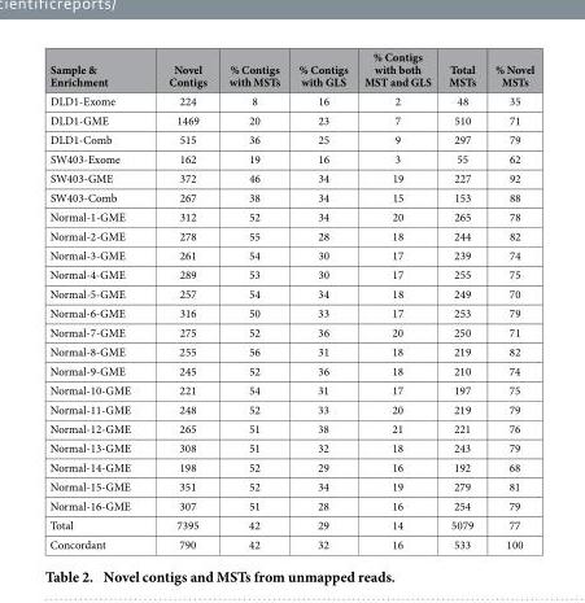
<table><thead><tr><td>Sample &amp; Enrichment</td><td>Novel Contigs</td><td>% Contigs with MSTs</td><td>% Contigs with GLS</td><td>% Contigs with both MST and GLS</td><td>Total MSTs</td><td>% Novel MSTs</td></tr></thead><tbody><tr><td>DLD1-Exome</td><td>224</td><td>8</td><td>16</td><td>2</td><td>48</td><td>35</td></tr><tr><td>DLD1-GME</td><td>1469</td><td>20</td><td>23</td><td>7</td><td>510</td><td>71</td></tr><tr><td>DLD1-Comb</td><td>515</td><td>36</td><td>25</td><td>9</td><td>297</td><td>79</td></tr><tr><td>SW403-Exome</td><td>162</td><td>19</td><td>16</td><td>3</td><td>55</td><td>62</td></tr><tr><td>SW403-GME</td><td>372</td><td>46</td><td>34</td><td>19</td><td>227</td><td>92</td></tr><tr><td>SW403-Comb</td><td>267</td><td>38</td><td>34</td><td>15</td><td>153</td><td>88</td></tr><tr><td>Normal-1-GME</td><td>312</td><td>52</td><td>34</td><td>20</td><td>265</td><td>78</td></tr><tr><td>Normal-2-GME</td><td>278</td><td>55</td><td>28</td><td>18</td><td>244</td><td>82</td></tr><tr><td>Normal-3-GME</td><td>261</td><td>54</td><td>30</td><td>17</td><td>239</td><td>74</td></tr><tr><td>Normal-4-GME</td><td>289</td><td>53</td><td>30</td><td>17</td><td>255</td><td>75</td></tr><tr><td>Normal-5-GME</td><td>257</td><td>54</td><td>34</td><td>18</td><td>249</td><td>70</td></tr><tr><td>Normal-6-GME</td><td>316</td><td>50</td><td>33</td><td>17</td><td>253</td><td>79</td></tr><tr><td>Normal-7-GME</td><td>275</td><td>52</td><td>36</td><td>20</td><td>250</td><td>71</td></tr><tr><td>Normal-8-GME</td><td>255</td><td>56</td><td>31</td><td>18</td><td>219</td><td>82</td></tr><tr><td>Normal-9-GME</td><td>245</td><td>52</td><td>36</td><td>18</td><td>210</td><td>74</td></tr><tr><td>Normal-10-GME</td><td>221</td><td>54</td><td>31</td><td>17</td><td>197</td><td>75</td></tr><tr><td>Normal-11-GME</td><td>248</td><td>52</td><td>33</td><td>20</td><td>219</td><td>79</td></tr><tr><td>Normal-12-GME</td><td>265</td><td>51</td><td>38</td><td>21</td><td>221</td><td>76</td></tr><tr><td>Normal-13-GME</td><td>308</td><td>51</td><td>32</td><td>18</td><td>243</td><td>79</td></tr><tr><td>Normal-14-GME</td><td>198</td><td>52</td><td>29</td><td>16</td><td>192</td><td>68</td></tr><tr><td>Normal-15-GME</td><td>351</td><td>52</td><td>34</td><td>19</td><td>279</td><td>81</td></tr><tr><td>Normal-16-GME</td><td>307</td><td>51</td><td>28</td><td>16</td><td>254</td><td>79</td></tr><tr><td>Total</td><td>7395</td><td>42</td><td>29</td><td>14</td><td>5079</td><td>77</td></tr><tr><td>Concordant</td><td>790</td><td>42</td><td>32</td><td>16</td><td>533</td><td>100</td></tr></tbody></table>